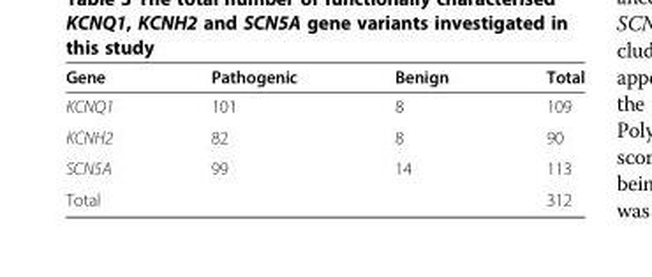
<table><thead><tr><td>Gene</td><td>Pathogenic</td><td>Benign</td><td>Total</td></tr></thead><tbody><tr><td>KCNQ1</td><td>101</td><td>8</td><td>109</td></tr><tr><td>KCNH2</td><td>82</td><td>8</td><td>90</td></tr><tr><td>SCN5A</td><td>99</td><td>14</td><td>113</td></tr><tr><td>Total</td><td></td><td></td><td>312</td></tr></tbody></table>